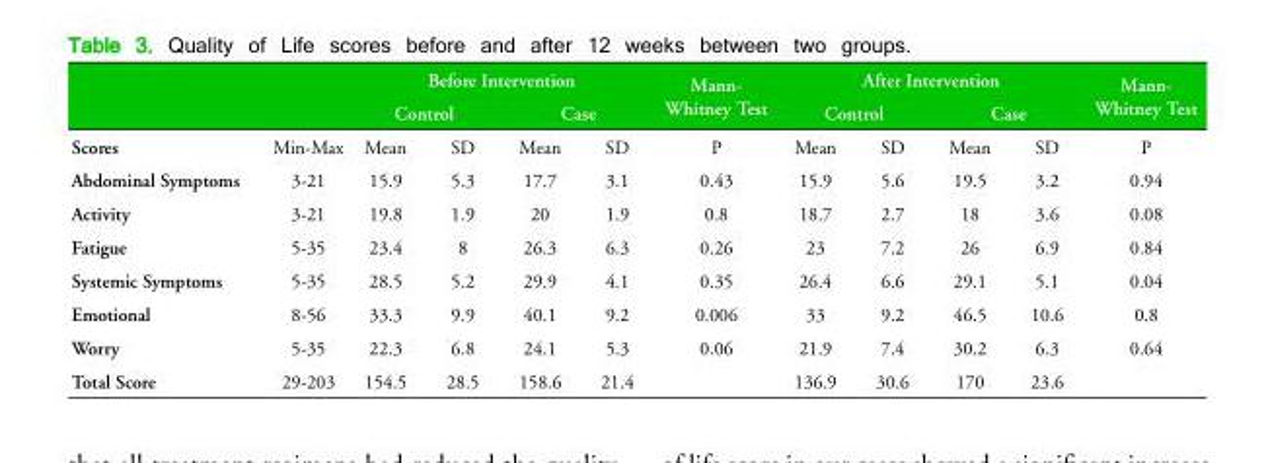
<table><thead><tr><td rowspan="3">Scores</td><td rowspan="3">Min-Max</td><td colspan="4">Before Intervention</td><td rowspan="3">Mann- Whitney Test P</td><td colspan="4">After Intervention</td><td rowspan="3">Mann- Whitney Test P</td></tr><tr><td colspan="2">Control</td><td colspan="2">Case</td><td colspan="2">Control</td><td colspan="2">Case</td></tr><tr><td>Mean</td><td>SD</td><td>Mean</td><td>SD</td><td>Mean</td><td>SD</td><td>Mean</td><td>SD</td></tr></thead><tbody><tr><td>Abdominal Symptoms</td><td>3-21</td><td>15.9</td><td>5.3</td><td>17.7</td><td>3.1</td><td>0.43</td><td>15.9</td><td>5.6</td><td>19.5</td><td>3.2</td><td>0.94</td></tr><tr><td>Activity</td><td>3-21</td><td>19.8</td><td>1.9</td><td>20</td><td>1.9</td><td>0.8</td><td>18.7</td><td>2.7</td><td>18</td><td>3.6</td><td>0.08</td></tr><tr><td>Fatigue</td><td>5-35</td><td>23.4</td><td>8</td><td>26.3</td><td>6.3</td><td>0.26</td><td>23</td><td>7.2</td><td>26</td><td>6.9</td><td>0.84</td></tr><tr><td>Systemic Symptoms</td><td>5-35</td><td>28.5</td><td>5.2</td><td>29.9</td><td>4.1</td><td>0.35</td><td>26.4</td><td>6.6</td><td>29.1</td><td>5.1</td><td>0.04</td></tr><tr><td>Emotional</td><td>8-56</td><td>33.3</td><td>9.9</td><td>40.1</td><td>9.2</td><td>0.006</td><td>33</td><td>9.2</td><td>46.5</td><td>10.6</td><td>0.8</td></tr><tr><td>Worry</td><td>5-35</td><td>22.3</td><td>6.8</td><td>24.1</td><td>5.3</td><td>0.06</td><td>21.9</td><td>7.4</td><td>30.2</td><td>6.3</td><td>0.64</td></tr><tr><td>Total Score</td><td>29-203</td><td>154.5</td><td>28.5</td><td>158.6</td><td>21.4</td><td></td><td>136.9</td><td>30.6</td><td>170</td><td>23.6</td><td></td></tr></tbody></table>